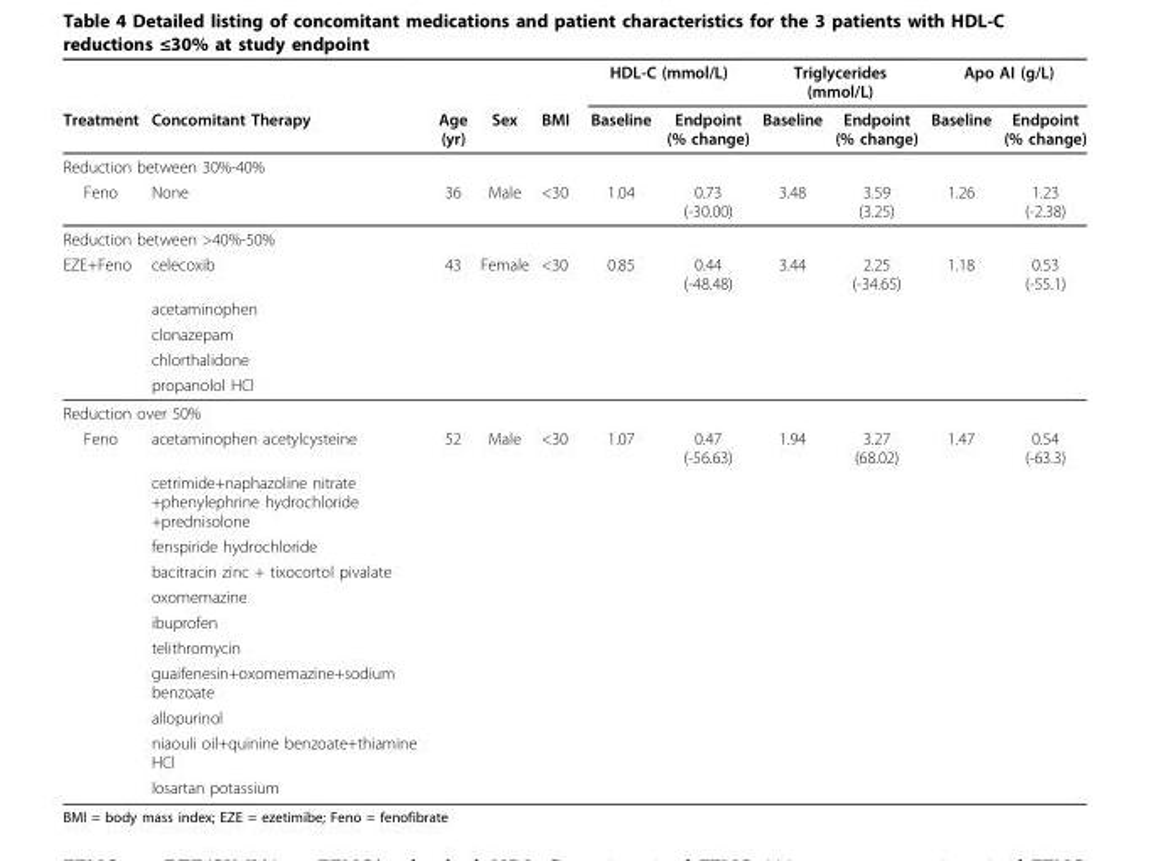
<table><thead><tr><td rowspan="2">Treatment</td><td rowspan="2">Concomitant Therapy</td><td rowspan="2">Age (yr)</td><td rowspan="2">Sex</td><td rowspan="2">BMI</td><td colspan="2">HDL-C (mmol/L)</td><td colspan="2">Triglycerides (mmol/L)</td><td colspan="2">Apo AI (g/L)</td></tr><tr><td>Baseline</td><td>Endpoint (% change)</td><td>Baseline</td><td>Endpoint (% change)</td><td>Baseline</td><td>Endpoint (% change)</td></tr></thead><tbody><tr><td colspan="11">Reduction between 30%-40%</td></tr><tr><td>Feno</td><td>None</td><td>36</td><td>Male</td><td>&lt;30</td><td>1.04</td><td>0.73 (-30.00)</td><td>3.48</td><td>3.59 (3.25)</td><td>1.26</td><td>1.23 (-2.38)</td></tr><tr><td colspan="11">Reduction between &gt;40%-50%</td></tr><tr><td rowspan="5">EZE+Feno</td><td>celecoxib</td><td>43</td><td>Female</td><td>&lt;30</td><td>0.85</td><td>0.44 (-48.48)</td><td>3.44</td><td>2.25 (-34.65)</td><td>1.18</td><td>0.53 (-55.1)</td></tr><tr><td>acetaminophen</td><td></td><td></td><td></td><td></td><td></td><td></td><td></td><td></td><td></td></tr><tr><td>clonazepam</td><td></td><td></td><td></td><td></td><td></td><td></td><td></td><td></td><td></td></tr><tr><td>chlorthalidone</td><td></td><td></td><td></td><td></td><td></td><td></td><td></td><td></td><td></td></tr><tr><td>propanolol HCl</td><td></td><td></td><td></td><td></td><td></td><td></td><td></td><td></td><td></td></tr><tr><td colspan="11">Reduction over 50%</td></tr><tr><td rowspan="11">Feno</td><td>acetaminophen acetylcysteine</td><td>52</td><td>Male</td><td>&lt;30</td><td>1.07</td><td>0.47 (-56.63)</td><td>1.94</td><td>3.27 (68.02)</td><td>1.47</td><td>0.54 (-63.3)</td></tr><tr><td>cetrimide+naphazoline nitrate +phenylephrine hydrochloride +prednisolone</td><td></td><td></td><td></td><td></td><td></td><td></td><td></td><td></td><td></td></tr><tr><td>fenspiride hydrochloride</td><td></td><td></td><td></td><td></td><td></td><td></td><td></td><td></td><td></td></tr><tr><td>bacitracin zinc + tixocortol pivalate</td><td></td><td></td><td></td><td></td><td></td><td></td><td></td><td></td><td></td></tr><tr><td>oxomemazine</td><td></td><td></td><td></td><td></td><td></td><td></td><td></td><td></td><td></td></tr><tr><td>ibuprofen</td><td></td><td></td><td></td><td></td><td></td><td></td><td></td><td></td><td></td></tr><tr><td>telithromycin</td><td></td><td></td><td></td><td></td><td></td><td></td><td></td><td></td><td></td></tr><tr><td>guaifenesin+oxomemazine+sodium benzoate</td><td></td><td></td><td></td><td></td><td></td><td></td><td></td><td></td><td></td></tr><tr><td>allopurinol</td><td></td><td></td><td></td><td></td><td></td><td></td><td></td><td></td><td></td></tr><tr><td>niaouli oil+quinine benzoate+thiamine HCl</td><td></td><td></td><td></td><td></td><td></td><td></td><td></td><td></td><td></td></tr><tr><td>losartan potassium</td><td></td><td></td><td></td><td></td><td></td><td></td><td></td><td></td><td></td></tr></tbody></table>